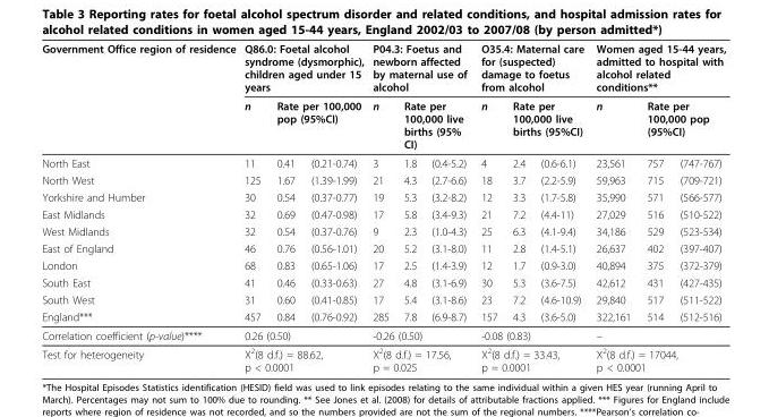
<table><thead><tr><td rowspan="3">Government Office region of residence North East</td><td colspan="3">Q86.0: Foetal alcohol syndrome (dysmorphic), children aged under 15 years</td><td colspan="3">P04.3: Foetus and newborn affected by maternal use of alcohol</td><td colspan="3">O35.4: Maternal care for (suspected) damage to foetus from alcohol</td><td colspan="3">Women aged 15-44 years, admitted to hospital with alcohol related conditions**</td></tr><tr><td rowspan="2">n 11</td><td colspan="2">Rate per 100,000 pop (95%CI)</td><td rowspan="2">n 3</td><td colspan="2">Rate per 100,000 live births (95% CI)</td><td rowspan="2">n 4</td><td colspan="2">Rate per 100,000 live births (95%CI)</td><td rowspan="2">n 23,561</td><td colspan="2">Rate per 100,000 pop (95%CI)</td></tr><tr><td>0.41</td><td>(0.21-0.74)</td><td>1.8</td><td>(0.4-5.2)</td><td>2.4</td><td>(0.6-6.1)</td><td>757</td><td>(747-767)</td></tr></thead><tbody><tr><td>North West</td><td>125</td><td>1.67</td><td>(1.39-1.99)</td><td>21</td><td>4.3</td><td>(2.7-6.6)</td><td>18</td><td>3.7</td><td>(2.2-5.9)</td><td>59,963</td><td>715</td><td>(709-721)</td></tr><tr><td>Yorkshire and Humber</td><td>30</td><td>0.54</td><td>(0.37-0.77)</td><td>19</td><td>5.3</td><td>(3.2-8.2)</td><td>12</td><td>3.3</td><td>(1.7-5.8)</td><td>35,990</td><td>571</td><td>(566-577)</td></tr><tr><td>East Midlands</td><td>32</td><td>0.69</td><td>(0.47-0.98)</td><td>17</td><td>5.8</td><td>(3.4-9.3)</td><td>21</td><td>7.2</td><td>(4.4-11)</td><td>27,029</td><td>516</td><td>(510-522)</td></tr><tr><td>West Midlands</td><td>32</td><td>0.54</td><td>(0.37-0.76)</td><td>9</td><td>2.3</td><td>(1.0-4.3)</td><td>25</td><td>6.3</td><td>(4.1-9.4)</td><td>34,186</td><td>529</td><td>(523-534)</td></tr><tr><td>East of England</td><td>46</td><td>0.76</td><td>(0.56-1.01)</td><td>20</td><td>5.2</td><td>(3.1-8.0)</td><td>11</td><td>2.8</td><td>(1.4-5.1)</td><td>26,637</td><td>402</td><td>(397-407)</td></tr><tr><td>London</td><td>68</td><td>0.83</td><td>(0.65-1.06)</td><td>17</td><td>2.5</td><td>(1.4-3.9)</td><td>12</td><td>1.7</td><td>(0.9-3.0)</td><td>40,894</td><td>375</td><td>(372-379)</td></tr><tr><td>South East</td><td>41</td><td>0.46</td><td>(0.33-0.63)</td><td>27</td><td>4.8</td><td>(3.1-6.9)</td><td>30</td><td>5.3</td><td>(3.6-7.5)</td><td>42,612</td><td>431</td><td>(427-435)</td></tr><tr><td>South West</td><td>31</td><td>0.60</td><td>(0.41-0.85)</td><td>17</td><td>5.4</td><td>(3.1-8.6)</td><td>23</td><td>7.2</td><td>(4.6-10.9)</td><td>29,840</td><td>517</td><td>(511-522)</td></tr><tr><td>England***</td><td>457</td><td>0.84</td><td>(0.76-0.92)</td><td>285</td><td>7.8</td><td>(6.9-8.7)</td><td>157</td><td>4.3</td><td>(3.6-5.0)</td><td>322,161</td><td>514</td><td>(512-516)</td></tr><tr><td>Correlation coefficient (p-value)****</td><td colspan="3">0.26 (0.50)</td><td colspan="3">-0.26 (0.50)</td><td colspan="3">-0.08 (0.83)</td><td colspan="3">–</td></tr><tr><td>Test for heterogeneity</td><td colspan="3">Χ<sup>2</sup>(8 d.f.) = 88.62, p &lt; 0.0001</td><td colspan="3">Χ<sup>2</sup>(8 d.f.) = 17.56, p = 0.025</td><td colspan="3">Χ<sup>2</sup>(8 d.f.) = 33.43, p = 0.0001</td><td colspan="3">Χ<sup>2</sup>(8 d.f.) = 17044, p &lt; 0.0001</td></tr></tbody></table>